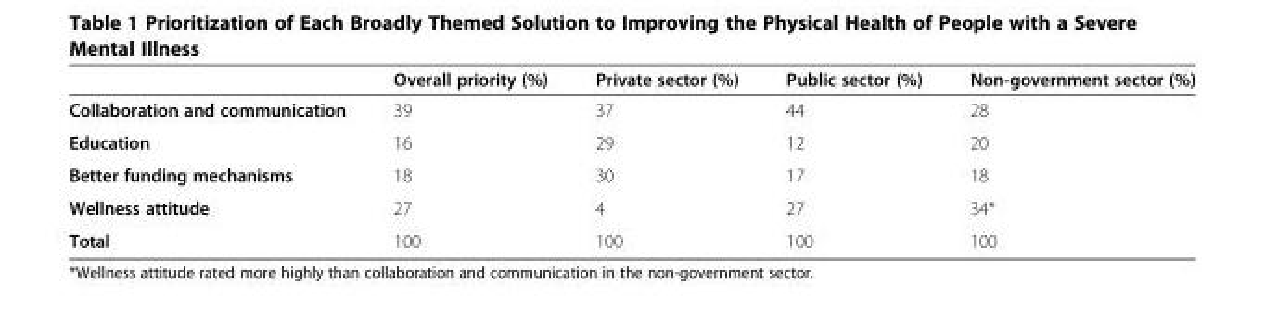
<table><thead><tr><td></td><td>Overall priority (%)</td><td>Private sector (%)</td><td>Public sector (%)</td><td>Non-government sector (%)</td></tr></thead><tbody><tr><td>Collaboration and communication</td><td>39</td><td>37</td><td>44</td><td>28</td></tr><tr><td>Education</td><td>16</td><td>29</td><td>12</td><td>20</td></tr><tr><td>Better funding mechanisms</td><td>18</td><td>30</td><td>17</td><td>18</td></tr><tr><td>Wellness attitude</td><td>27</td><td>4</td><td>27</td><td>34*</td></tr><tr><td>Total</td><td>100</td><td>100</td><td>100</td><td>100</td></tr></tbody></table>